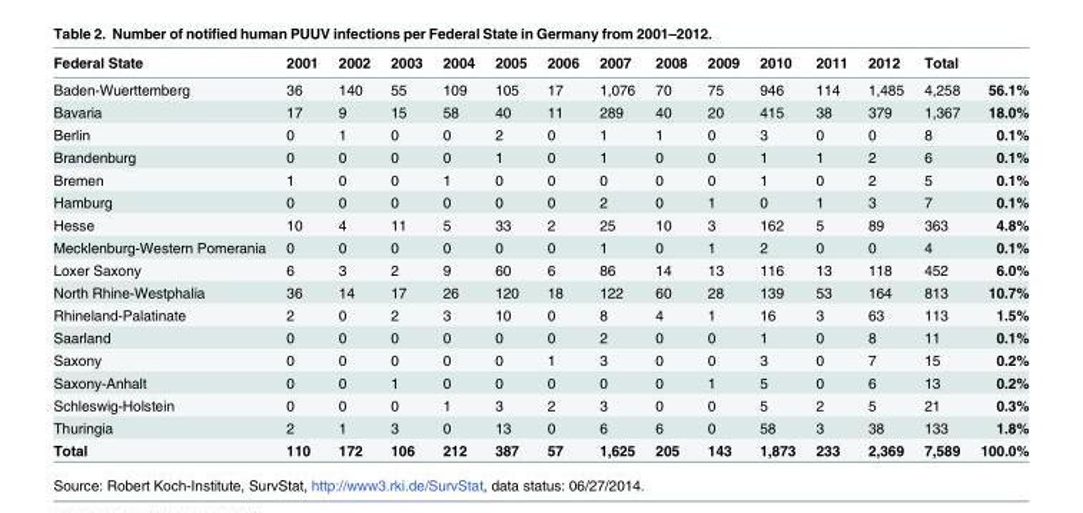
<table><thead><tr><td>Federal State</td><td>2001</td><td>2002</td><td>2003</td><td>2004</td><td>2005</td><td>2006</td><td>2007</td><td>2008</td><td>2009</td><td>2010</td><td>2011</td><td>2012</td><td>Total</td><td></td></tr></thead><tbody><tr><td>Baden-Wuerttemberg</td><td>36</td><td>140</td><td>55</td><td>109</td><td>105</td><td>17</td><td>1,076</td><td>70</td><td>75</td><td>946</td><td>114</td><td>1,485</td><td>4,258</td><td>56.1%</td></tr><tr><td>Bavaria</td><td>17</td><td>9</td><td>15</td><td>58</td><td>40</td><td>11</td><td>289</td><td>40</td><td>20</td><td>415</td><td>38</td><td>379</td><td>1,367</td><td>18.0%</td></tr><tr><td>Berlin</td><td>0</td><td>1</td><td>0</td><td>0</td><td>2</td><td>0</td><td>1</td><td>1</td><td>0</td><td>3</td><td>0</td><td>0</td><td>8</td><td>0.1%</td></tr><tr><td>Brandenburg</td><td>0</td><td>0</td><td>0</td><td>0</td><td>1</td><td>0</td><td>1</td><td>0</td><td>0</td><td>1</td><td>1</td><td>2</td><td>6</td><td>0.1%</td></tr><tr><td>Bremen</td><td>1</td><td>0</td><td>0</td><td>1</td><td>0</td><td>0</td><td>0</td><td>0</td><td>0</td><td>1</td><td>0</td><td>2</td><td>5</td><td>0.1%</td></tr><tr><td>Hamburg</td><td>0</td><td>0</td><td>0</td><td>0</td><td>0</td><td>0</td><td>2</td><td>0</td><td>1</td><td>0</td><td>1</td><td>3</td><td>7</td><td>0.1%</td></tr><tr><td>Hesse</td><td>10</td><td>4</td><td>11</td><td>5</td><td>33</td><td>2</td><td>25</td><td>10</td><td>3</td><td>162</td><td>5</td><td>89</td><td>363</td><td>4.8%</td></tr><tr><td>Mecklenburg-Western Pomerania</td><td>0</td><td>0</td><td>0</td><td>0</td><td>0</td><td>0</td><td>1</td><td>0</td><td>1</td><td>2</td><td>0</td><td>0</td><td>4</td><td>0.1%</td></tr><tr><td>Loxer Saxony</td><td>6</td><td>3</td><td>2</td><td>9</td><td>60</td><td>6</td><td>86</td><td>14</td><td>13</td><td>116</td><td>13</td><td>118</td><td>452</td><td>6.0%</td></tr><tr><td>North Rhine-Westphalia</td><td>36</td><td>14</td><td>17</td><td>26</td><td>120</td><td>18</td><td>122</td><td>60</td><td>28</td><td>139</td><td>53</td><td>164</td><td>813</td><td>10.7%</td></tr><tr><td>Rhineland-Palatinate</td><td>2</td><td>0</td><td>2</td><td>3</td><td>10</td><td>0</td><td>8</td><td>4</td><td>1</td><td>16</td><td>3</td><td>63</td><td>113</td><td>1.5%</td></tr><tr><td>Saarland</td><td>0</td><td>0</td><td>0</td><td>0</td><td>0</td><td>0</td><td>2</td><td>0</td><td>0</td><td>1</td><td>0</td><td>8</td><td>11</td><td>0.1%</td></tr><tr><td>Saxony</td><td>0</td><td>0</td><td>0</td><td>0</td><td>0</td><td>1</td><td>3</td><td>0</td><td>0</td><td>3</td><td>0</td><td>7</td><td>15</td><td>0.2%</td></tr><tr><td>Saxony-Anhalt</td><td>0</td><td>0</td><td>1</td><td>0</td><td>0</td><td>0</td><td>0</td><td>0</td><td>1</td><td>5</td><td>0</td><td>6</td><td>13</td><td>0.2%</td></tr><tr><td>Schleswig-Holstein</td><td>0</td><td>0</td><td>0</td><td>1</td><td>3</td><td>2</td><td>3</td><td>0</td><td>0</td><td>5</td><td>2</td><td>5</td><td>21</td><td>0.3%</td></tr><tr><td>Thuringia</td><td>2</td><td>1</td><td>3</td><td>0</td><td>13</td><td>0</td><td>6</td><td>6</td><td>0</td><td>58</td><td>3</td><td>38</td><td>133</td><td>1.8%</td></tr><tr><td>Total</td><td>110</td><td>172</td><td>106</td><td>212</td><td>387</td><td>57</td><td>1,625</td><td>205</td><td>143</td><td>1,873</td><td>233</td><td>2,369</td><td>7,589</td><td>100.0%</td></tr></tbody></table>